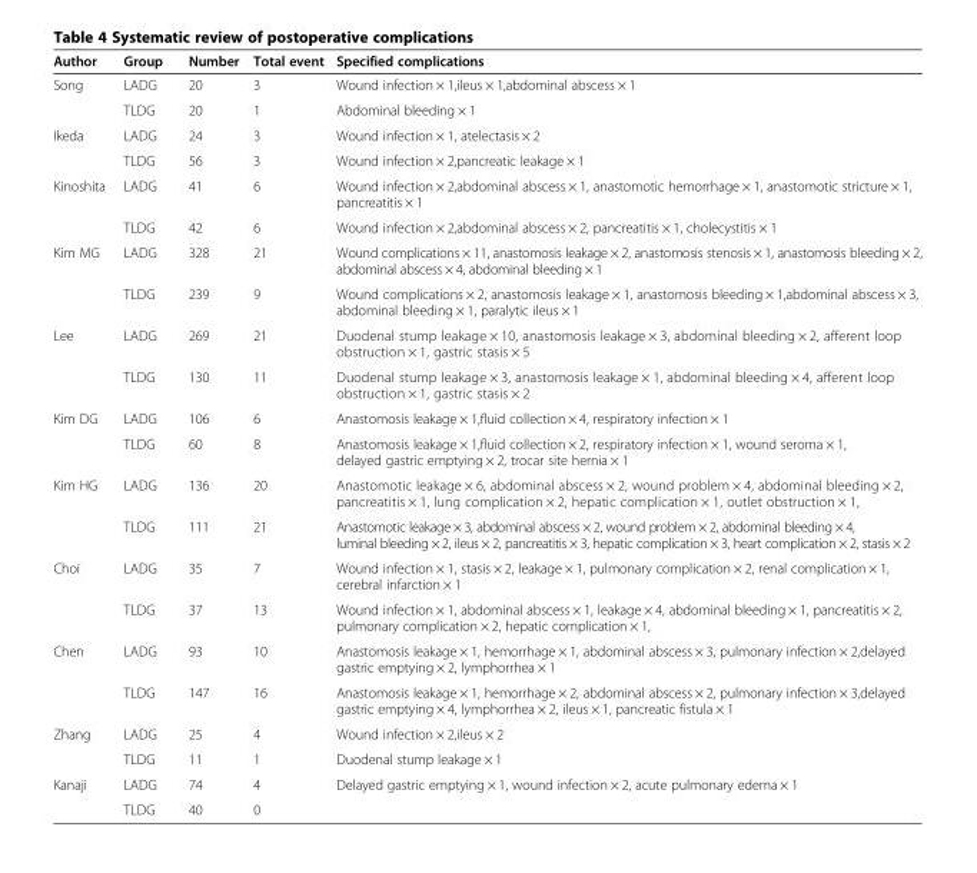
<table><thead><tr><td>Author</td><td>Group</td><td>Number</td><td>Total event</td><td>Specified complications</td></tr></thead><tbody><tr><td rowspan="2">Song</td><td>LADG</td><td>20</td><td>3</td><td>Wound infection × 1,ileus × 1,abdominal abscess × 1</td></tr><tr><td>TLDG</td><td>20</td><td>1</td><td>Abdominal bleeding × 1</td></tr><tr><td rowspan="2">Ikeda</td><td>LADG</td><td>24</td><td>3</td><td>Wound infection × 1, atelectasis × 2</td></tr><tr><td>TLDG</td><td>56</td><td>3</td><td>Wound infection × 2,pancreatic leakage × 1</td></tr><tr><td rowspan="2">Kinoshita</td><td>LADG</td><td>41</td><td>6</td><td>Wound infection × 2,abdominal abscess × 1, anastomotic hemorrhage × 1, anastomotic stricture × 1, pancreatitis × 1</td></tr><tr><td>TLDG</td><td>42</td><td>6</td><td>Wound infection × 2,abdominal abscess × 2, pancreatitis × 1, cholecystitis × 1</td></tr><tr><td rowspan="2">Kim MG</td><td>LADG</td><td>328</td><td>21</td><td>Wound complications × 11, anastomosis leakage × 2, anastomosis stenosis × 1, anastomosis bleeding × 2, abdominal abscess × 4, abdominal bleeding × 1</td></tr><tr><td>TLDG</td><td>239</td><td>9</td><td>Wound complications × 2, anastomosis leakage × 1, anastomosis bleeding × 1,abdominal abscess × 3, abdominal bleeding × 1, paralytic ileus × 1</td></tr><tr><td rowspan="2">Lee</td><td>LADG</td><td>269</td><td>21</td><td>Duodenal stump leakage × 10, anastomosis leakage × 3, abdominal bleeding × 2, afferent loop obstruction × 1, gastric stasis × 5</td></tr><tr><td>TLDG</td><td>130</td><td>11</td><td>Duodenal stump leakage × 3, anastomosis leakage × 1, abdominal bleeding × 4, afferent loop obstruction × 1, gastric stasis × 2</td></tr><tr><td rowspan="2">Kim DG</td><td>LADG</td><td>106</td><td>6</td><td>Anastomosis leakage × 1,fluid collection × 4, respiratory infection × 1</td></tr><tr><td>TLDG</td><td>60</td><td>8</td><td>Anastomosis leakage × 1,fluid collection × 2, respiratory infection × 1, wound seroma × 1, delayed gastric emptying × 2, trocar site hernia × 1</td></tr><tr><td rowspan="2">Kim HG</td><td>LADG</td><td>136</td><td>20</td><td>Anastomotic leakage × 6, abdominal abscess × 2, wound problem × 4, abdominal bleeding × 2, pancreatitis × 1, lung complication × 2, hepatic complication × 1, outlet obstruction × 1,</td></tr><tr><td>TLDG</td><td>111</td><td>21</td><td>Anastomotic leakage × 3, abdominal abscess × 2, wound problem × 2, abdominal bleeding × 4, luminal bleeding × 2, ileus × 2, pancreatitis × 3, hepatic complication × 3, heart complication × 2, stasis × 2</td></tr><tr><td rowspan="2">Choi</td><td>LADG</td><td>35</td><td>7</td><td>Wound infection × 1, stasis × 2, leakage × 1, pulmonary complication × 2, renal complication × 1, cerebral infarction × 1</td></tr><tr><td>TLDG</td><td>37</td><td>13</td><td>Wound infection × 1, abdominal abscess × 1, leakage × 4, abdominal bleeding × 1, pancreatitis × 2, pulmonary complication × 2, hepatic complication × 1,</td></tr><tr><td rowspan="2">Chen</td><td>LADG</td><td>93</td><td>10</td><td>Anastomosis leakage × 1, hemorrhage × 1, abdominal abscess × 3, pulmonary infection × 2,delayed gastric emptying × 2, lymphorrhea × 1</td></tr><tr><td>TLDG</td><td>147</td><td>16</td><td>Anastomosis leakage × 1, hemorrhage × 2, abdominal abscess × 2, pulmonary infection × 3,delayed gastric emptying × 4, lymphorrhea × 2, ileus × 1, pancreatic fistula × 1</td></tr><tr><td rowspan="2">Zhang</td><td>LADG</td><td>25</td><td>4</td><td>Wound infection × 2,ileus × 2</td></tr><tr><td>TLDG</td><td>11</td><td>1</td><td>Duodenal stump leakage × 1</td></tr><tr><td rowspan="2">Kanaji</td><td>LADG</td><td>74</td><td>4</td><td>Delayed gastric emptying × 1, wound infection × 2, acute pulmonary edema × 1</td></tr><tr><td>TLDG</td><td>40</td><td>0</td><td></td></tr></tbody></table>